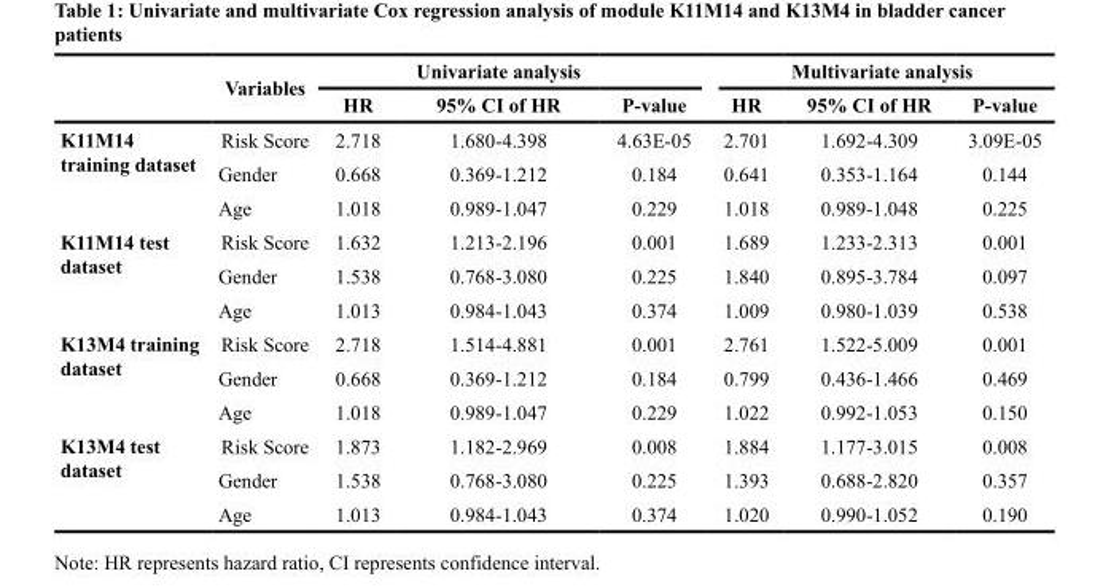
<table><thead><tr><td rowspan="2"></td><td rowspan="2">Variables</td><td colspan="3">Univariate analysis</td><td colspan="3">Multivariate analysis</td></tr><tr><td>HR</td><td>95% CI of HR</td><td>P-value</td><td>HR</td><td>95% CI of HR</td><td>P-value</td></tr></thead><tbody><tr><td rowspan="3">K11M14 training dataset</td><td>Risk Score</td><td>2.718</td><td>1.680-4.398</td><td>4.63E-05</td><td>2.701</td><td>1.692-4.309</td><td>3.09E-05</td></tr><tr><td>Gender</td><td>0.668</td><td>0.369-1.212</td><td>0.184</td><td>0.641</td><td>0.353-1.164</td><td>0.144</td></tr><tr><td>Age</td><td>1.018</td><td>0.989-1.047</td><td>0.229</td><td>1.018</td><td>0.989-1.048</td><td>0.225</td></tr><tr><td rowspan="3">K11M14 test dataset</td><td>Risk Score</td><td>1.632</td><td>1.213-2.196</td><td>0.001</td><td>1.689</td><td>1.233-2.313</td><td>0.001</td></tr><tr><td>Gender</td><td>1.538</td><td>0.768-3.080</td><td>0.225</td><td>1.840</td><td>0.895-3.784</td><td>0.097</td></tr><tr><td>Age</td><td>1.013</td><td>0.984-1.043</td><td>0.374</td><td>1.009</td><td>0.980-1.039</td><td>0.538</td></tr><tr><td rowspan="3">K13M4 training dataset</td><td>Risk Score</td><td>2.718</td><td>1.514-4.881</td><td>0.001</td><td>2.761</td><td>1.522-5.009</td><td>0.001</td></tr><tr><td>Gender</td><td>0.668</td><td>0.369-1.212</td><td>0.184</td><td>0.799</td><td>0.436-1.466</td><td>0.469</td></tr><tr><td>Age</td><td>1.018</td><td>0.989-1.047</td><td>0.229</td><td>1.022</td><td>0.992-1.053</td><td>0.150</td></tr><tr><td rowspan="3">K13M4 test dataset</td><td>Risk Score</td><td>1.873</td><td>1.182-2.969</td><td>0.008</td><td>1.884</td><td>1.177-3.015</td><td>0.008</td></tr><tr><td>Gender</td><td>1.538</td><td>0.768-3.080</td><td>0.225</td><td>1.393</td><td>0.688-2.820</td><td>0.357</td></tr><tr><td>Age</td><td>1.013</td><td>0.984-1.043</td><td>0.374</td><td>1.020</td><td>0.990-1.052</td><td>0.190</td></tr></tbody></table>